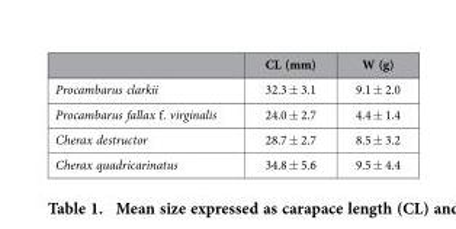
<table><thead><tr><td></td><td>CL (mm)</td><td>W (g)</td></tr></thead><tbody><tr><td>Procambarus clarkii</td><td>32.3 ± 3.1</td><td>9.1 ± 2.0</td></tr><tr><td>Procambarus fallax f. virginalis</td><td>24.0 ± 2.7</td><td>4.4 ± 1.4</td></tr><tr><td>Cherax destructor</td><td>28.7 ± 2.7</td><td>8.5 ± 3.2</td></tr><tr><td>Cherax quadricarinatus</td><td>34.8 ± 5.6</td><td>9.5 ± 4.4</td></tr></tbody></table>